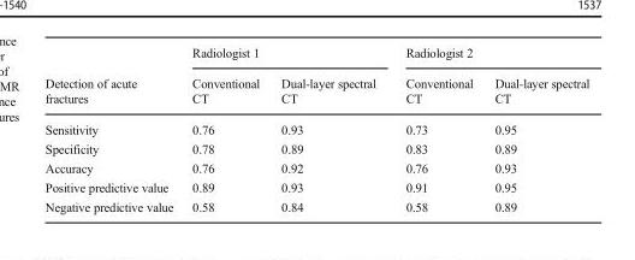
<table><thead><tr><td rowspan="2">Detection of acute fractures</td><td colspan="2">Radiologist 1</td><td colspan="2">Radiologist 2</td></tr><tr><td>Conventional CT</td><td>Dual-layer spectral CT</td><td>Conventional CT</td><td>Dual-layer spectral CT</td></tr></thead><tbody><tr><td>Sensitivity</td><td>0.76</td><td>0.93</td><td>0.73</td><td>0.95</td></tr><tr><td>Specificity</td><td>0.78</td><td>0.89</td><td>0.83</td><td>0.89</td></tr><tr><td>Accuracy</td><td>0.76</td><td>0.92</td><td>0.76</td><td>0.93</td></tr><tr><td>Positive predictive value</td><td>0.89</td><td>0.93</td><td>0.91</td><td>0.95</td></tr><tr><td>Negative predictive value</td><td>0.58</td><td>0.84</td><td>0.58</td><td>0.89</td></tr></tbody></table>